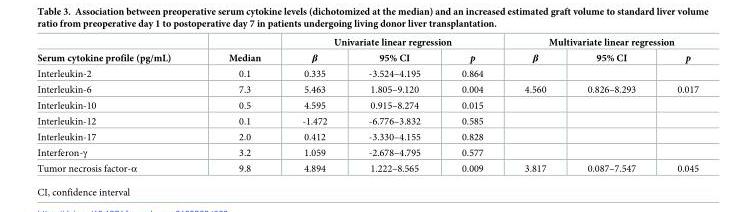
<table><thead><tr><td rowspan="2">Serum cytokine profile (pg/mL)</td><td rowspan="2">Median</td><td colspan="3">Univariate linear regression</td><td colspan="3">Multivariate linear regression</td></tr><tr><td>β</td><td>95% CI</td><td>p</td><td>β</td><td>95% CI</td><td>p</td></tr></thead><tbody><tr><td>Interleukin-2</td><td>0.1</td><td>0.335</td><td>-3.524–4.195</td><td>0.864</td><td></td><td></td><td></td></tr><tr><td>Interleukin-6</td><td>7.3</td><td>5.463</td><td>1.805–9.120</td><td>0.004</td><td>4.560</td><td>0.826–8.293</td><td>0.017</td></tr><tr><td>Interleukin-10</td><td>0.5</td><td>4.595</td><td>0.915–8.274</td><td>0.015</td><td></td><td></td><td></td></tr><tr><td>Interleukin-12</td><td>0.1</td><td>-1.472</td><td>-6.776–3.832</td><td>0.585</td><td></td><td></td><td></td></tr><tr><td>Interleukin-17</td><td>2.0</td><td>0.412</td><td>-3.330–4.155</td><td>0.828</td><td></td><td></td><td></td></tr><tr><td>Interferon-γ</td><td>3.2</td><td>1.059</td><td>-2.678–4.795</td><td>0.577</td><td></td><td></td><td></td></tr><tr><td>Tumor necrosis factor-α</td><td>9.8</td><td>4.894</td><td>1.222–8.565</td><td>0.009</td><td>3.817</td><td>0.087–7.547</td><td>0.045</td></tr></tbody></table>